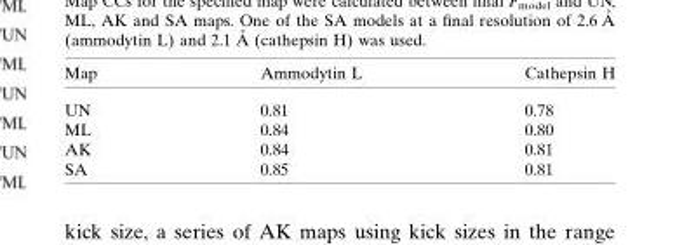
<table><thead><tr><td>Map</td><td>Ammodytin L</td><td>Cathepsin H</td></tr></thead><tbody><tr><td>UN</td><td>0.81</td><td>0.78</td></tr><tr><td>ML</td><td>0.84</td><td>0.80</td></tr><tr><td>AK</td><td>0.84</td><td>0.81</td></tr><tr><td>SA</td><td>0.85</td><td>0.81</td></tr></tbody></table>